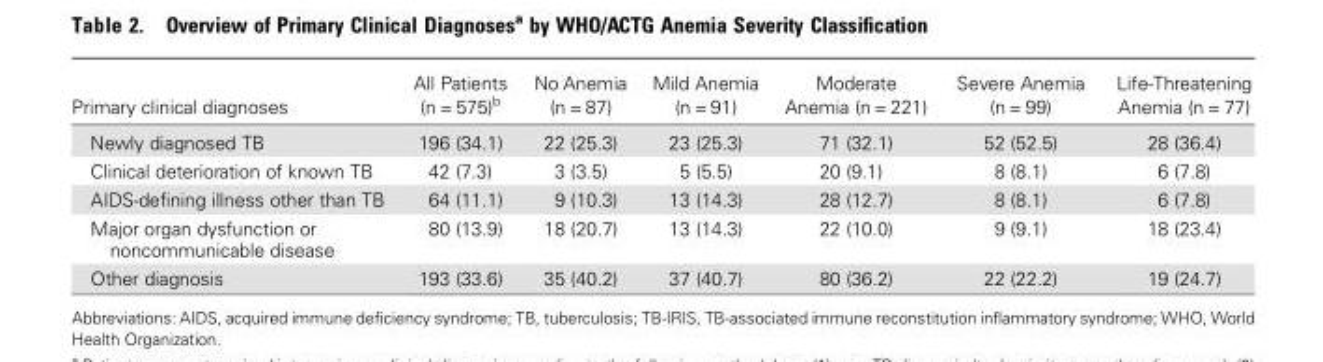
<table><thead><tr><td>Primary clinical diagnoses</td><td>All Patients (n = 575)<sup>b</sup></td><td>No Anemia (n = 87)</td><td>Mild Anemia (n = 91)</td><td>Moderate Anemia (n = 221)</td><td>Severe Anemia (n = 99)</td><td>Life-Threatening Anemia (n = 77)</td></tr></thead><tbody><tr><td>Newly diagnosed TB</td><td>196 (34.1)</td><td>22 (25.3)</td><td>23 (25.3)</td><td>71 (32.1)</td><td>52 (52.5)</td><td>28 (36.4)</td></tr><tr><td>Clinical deterioration of known TB</td><td>42 (7.3)</td><td>3 (3.5)</td><td>5 (5.5)</td><td>20 (9.1)</td><td>8 (8.1)</td><td>6 (7.8)</td></tr><tr><td>AIDS-defining illness other than TB</td><td>64 (11.1)</td><td>9 (10.3)</td><td>13 (14.3)</td><td>28 (12.7)</td><td>8 (8.1)</td><td>6 (7.8)</td></tr><tr><td>Major organ dysfunction or noncommunicable disease</td><td>80 (13.9)</td><td>18 (20.7)</td><td>13 (14.3)</td><td>22 (10.0)</td><td>9 (9.1)</td><td>18 (23.4)</td></tr><tr><td>Other diagnosis</td><td>193 (33.6)</td><td>35 (40.2)</td><td>37 (40.7)</td><td>80 (36.2)</td><td>22 (22.2)</td><td>19 (24.7)</td></tr></tbody></table>